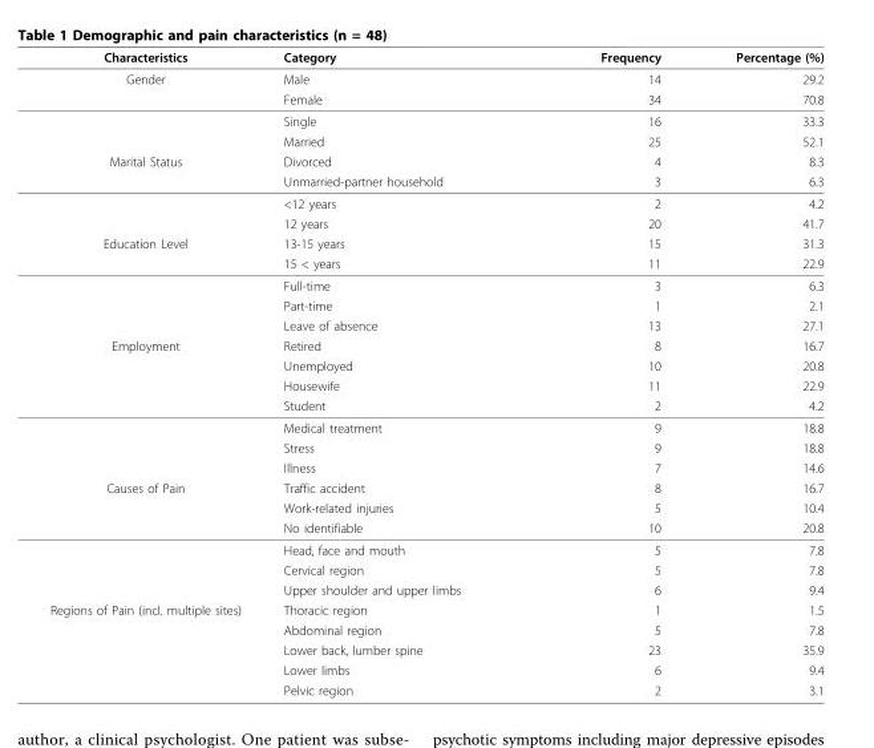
<table><thead><tr><td>Characteristics</td><td>Category</td><td>Frequency</td><td>Percentage (%)</td></tr></thead><tbody><tr><td rowspan="4">Gender</td><td>Male</td><td>14</td><td>29.2</td></tr><tr><td>Female</td><td>34</td><td>70.8</td></tr><tr><td>Single</td><td>16</td><td>33.3</td></tr><tr><td>Married</td><td>25</td><td>52.1</td></tr><tr><td rowspan="4">Marital Status</td><td>Divorced</td><td>4</td><td>8.3</td></tr><tr><td>Unmarried-partner household</td><td>3</td><td>6.3</td></tr><tr><td>&lt;12 years</td><td>2</td><td>4.2</td></tr><tr><td>12 years</td><td>20</td><td>41.7</td></tr><tr><td rowspan="5">Education Level</td><td>13-15 years</td><td>15</td><td>31.3</td></tr><tr><td>15 &lt; years</td><td>11</td><td>22.9</td></tr><tr><td>Full-time</td><td>3</td><td>6.3</td></tr><tr><td>Part-time</td><td>1</td><td>2.1</td></tr><tr><td>Leave of absence</td><td>13</td><td>27.1</td></tr><tr><td rowspan="7">Employment</td><td>Retired</td><td>8</td><td>16.7</td></tr><tr><td>Unemployed</td><td>10</td><td>20.8</td></tr><tr><td>Housewife</td><td>11</td><td>22.9</td></tr><tr><td>Student</td><td>2</td><td>4.2</td></tr><tr><td>Medical treatment</td><td>9</td><td>18.8</td></tr><tr><td>Stress</td><td>9</td><td>18.8</td></tr><tr><td>Illness</td><td>7</td><td>14.6</td></tr><tr><td rowspan="6">Causes of Pain</td><td>Traffic accident</td><td>8</td><td>16.7</td></tr><tr><td>Work-related injuries</td><td>5</td><td>10.4</td></tr><tr><td>No identifiable</td><td>10</td><td>20.8</td></tr><tr><td>Head, face and mouth</td><td>5</td><td>7.8</td></tr><tr><td>Cervical region</td><td>5</td><td>7.8</td></tr><tr><td>Upper shoulder and upper limbs</td><td>6</td><td>9.4</td></tr><tr><td rowspan="5">Regions of Pain (incl. multiple sites)</td><td>Thoracic region</td><td>1</td><td>1.5</td></tr><tr><td>Abdominal region</td><td>5</td><td>7.8</td></tr><tr><td>Lower back, lumber spine</td><td>23</td><td>35.9</td></tr><tr><td>Lower limbs</td><td>6</td><td>9.4</td></tr><tr><td>Pelvic region</td><td>2</td><td>3.1</td></tr></tbody></table>